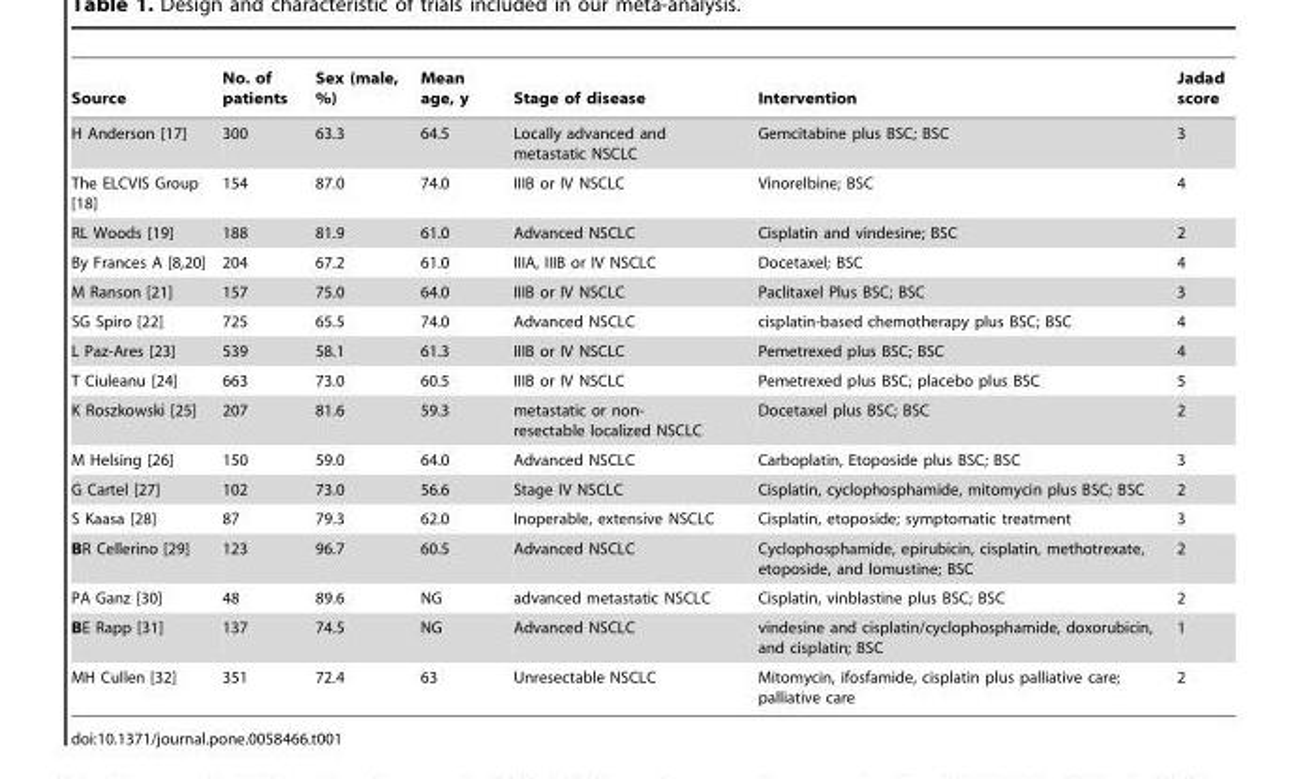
<table><thead><tr><td>Source</td><td>No. of patients</td><td>Sex (male, %)</td><td>Mean age, y</td><td>Stage of disease</td><td>Intervention</td><td>Jadad score</td></tr></thead><tbody><tr><td>H Anderson [17]</td><td>300</td><td>63.3</td><td>64.5</td><td>Locally advanced and metastatic NSCLC</td><td>Gemcitabine plus BSC; BSC</td><td>3</td></tr><tr><td>The ELCVIS Group [18]</td><td>154</td><td>87.0</td><td>74.0</td><td>IIIB or IV NSCLC</td><td>Vinorelbine; BSC</td><td>4</td></tr><tr><td>RL Woods [19]</td><td>188</td><td>81.9</td><td>61.0</td><td>Advanced NSCLC</td><td>Cisplatin and vindesine; BSC</td><td>2</td></tr><tr><td>By Frances A [8,20]</td><td>204</td><td>67.2</td><td>61.0</td><td>IIIA, IIIB or IV NSCLC</td><td>Docetaxel; BSC</td><td>4</td></tr><tr><td>M Ranson [21]</td><td>157</td><td>75.0</td><td>64.0</td><td>IIIB or IV NSCLC</td><td>Paclitaxel Plus BSC; BSC</td><td>3</td></tr><tr><td>SG Spiro [22]</td><td>725</td><td>65.5</td><td>74.0</td><td>Advanced NSCLC</td><td>cisplatin-based chemotherapy plus BSC; BSC</td><td>4</td></tr><tr><td>L Paz-Ares [23]</td><td>539</td><td>58.1</td><td>61.3</td><td>IIIB or IV NSCLC</td><td>Pemetrexed plus BSC; BSC</td><td>4</td></tr><tr><td>T Ciuleanu [24]</td><td>663</td><td>73.0</td><td>60.5</td><td>IIIB or IV NSCLC</td><td>Pemetrexed plus BSC; placebo plus BSC</td><td>5</td></tr><tr><td>K Roszkowski [25]</td><td>207</td><td>81.6</td><td>59.3</td><td>metastatic or non- resectable localized NSCLC</td><td>Docetaxel plus BSC; BSC</td><td>2</td></tr><tr><td>M Helsing [26]</td><td>150</td><td>59.0</td><td>64.0</td><td>Advanced NSCLC</td><td>Carboplatin, Etoposide plus BSC; BSC</td><td>3</td></tr><tr><td>G Cartel [27]</td><td>102</td><td>73.0</td><td>56.6</td><td>Stage IV NSCLC</td><td>Cisplatin, cyclophosphamide, mitomycin plus BSC; BSC</td><td>2</td></tr><tr><td>S Kaasa [28]</td><td>87</td><td>79.3</td><td>62.0</td><td>Inoperable, extensive NSCLC</td><td>Cisplatin, etoposide; symptomatic treatment</td><td>3</td></tr><tr><td>BR Cellerino [29]</td><td>123</td><td>96.7</td><td>60.5</td><td>Advanced NSCLC</td><td>Cyclophosphamide, epirubicin, cisplatin, methotrexate, etoposide, and lomustine; BSC</td><td>2</td></tr><tr><td>PA Ganz [30]</td><td>48</td><td>89.6</td><td>NG</td><td>advanced metastatic NSCLC</td><td>Cisplatin, vinblastine plus BSC; BSC</td><td>2</td></tr><tr><td>BE Rapp [31]</td><td>137</td><td>74.5</td><td>NG</td><td>Advanced NSCLC</td><td>vindesine and cisplatin/cyclophosphamide, doxorubicin, and cisplatin; BSC</td><td>1</td></tr><tr><td>MH Cullen [32]</td><td>351</td><td>72.4</td><td>63</td><td>Unresectable NSCLC</td><td>Mitomycin, ifosfamide, cisplatin plus palliative care; palliative care</td><td>2</td></tr></tbody></table>